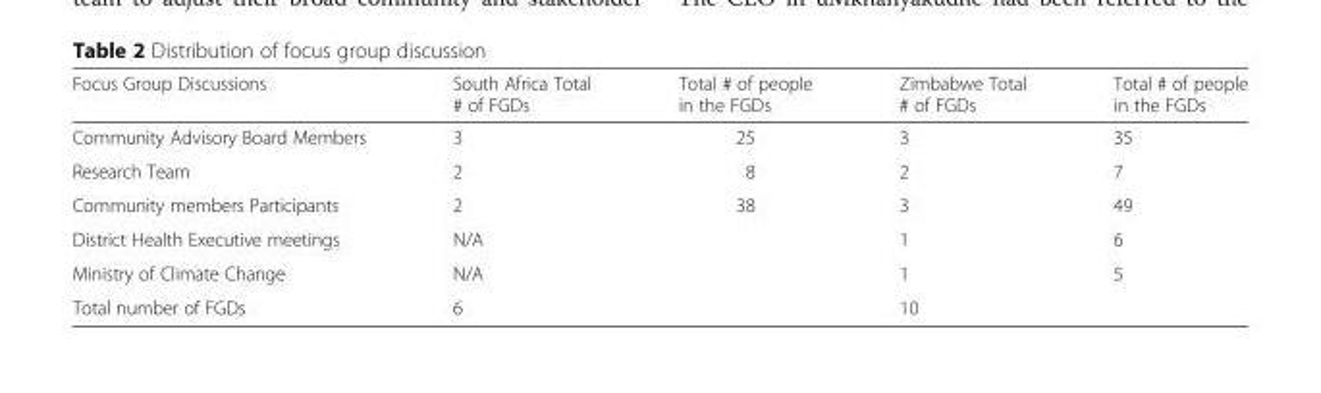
<table><thead><tr><td>Focus Group Discussions</td><td>South Africa Total # of FGDs</td><td>Total # of people in the FGDs</td><td>Zimbabwe Total # of FGDs</td><td>Total # of people in the FGDs</td></tr></thead><tbody><tr><td>Community Advisory Board Members</td><td>3</td><td>25</td><td>3</td><td>35</td></tr><tr><td>Research Team</td><td>2</td><td>8</td><td>2</td><td>7</td></tr><tr><td>Community members Participants</td><td>2</td><td>38</td><td>3</td><td>49</td></tr><tr><td>District Health Executive meetings</td><td>N/A</td><td></td><td>1</td><td>6</td></tr><tr><td>Ministry of Climate Change</td><td>N/A</td><td></td><td>1</td><td>5</td></tr><tr><td>Total number of FGDs</td><td>6</td><td></td><td>10</td><td></td></tr></tbody></table>